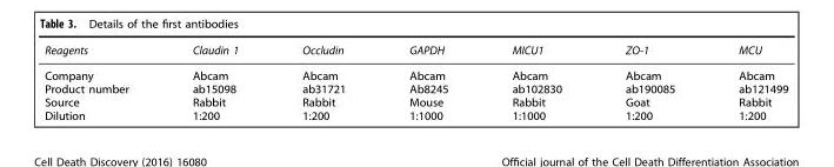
<table><thead><tr><td>Reagents</td><td>Claudin 1</td><td>Occludin</td><td>GAPDH</td><td>MICU1</td><td>ZO-1</td><td>MCU</td></tr></thead><tbody><tr><td>Company</td><td>Abcam</td><td>Abcam</td><td>Abcam</td><td>Abcam</td><td>Abcam</td><td>Abcam</td></tr><tr><td>Product number</td><td>ab15098</td><td>ab31721</td><td>Ab8245</td><td>ab102830</td><td>ab190085</td><td>ab121499</td></tr><tr><td>Source</td><td>Rabbit</td><td>Rabbit</td><td>Mouse</td><td>Rabbit</td><td>Goat</td><td>Rabbit</td></tr><tr><td>Dilution</td><td>1:200</td><td>1:200</td><td>1:1000</td><td>1:1000</td><td>1:200</td><td>1:200</td></tr></tbody></table>